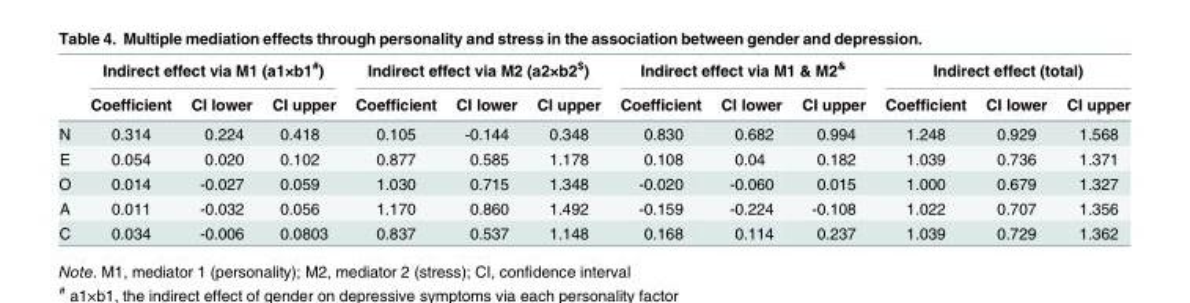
<table><thead><tr><td rowspan="2"></td><td colspan="3">Indirect effect via M1 (a1×b1<sup>#</sup>)</td><td colspan="3">Indirect effect via M2 (a2×b2<sup>$</sup>)</td><td colspan="3">Indirect effect via M1 &amp; M2<sup>&amp;</sup></td><td colspan="3">Indirect effect (total)</td></tr><tr><td>Coefficient</td><td>CI lower</td><td>CI upper</td><td>Coefficient</td><td>CI lower</td><td>CI upper</td><td>Coefficient</td><td>CI lower</td><td>CI upper</td><td>Coefficient</td><td>CI lower</td><td>CI upper</td></tr></thead><tbody><tr><td>N</td><td>0.314</td><td>0.224</td><td>0.418</td><td>0.105</td><td>-0.144</td><td>0.348</td><td>0.830</td><td>0.682</td><td>0.994</td><td>1.248</td><td>0.929</td><td>1.568</td></tr><tr><td>E</td><td>0.054</td><td>0.020</td><td>0.102</td><td>0.877</td><td>0.585</td><td>1.178</td><td>0.108</td><td>0.04</td><td>0.182</td><td>1.039</td><td>0.736</td><td>1.371</td></tr><tr><td>O</td><td>0.014</td><td>-0.027</td><td>0.059</td><td>1.030</td><td>0.715</td><td>1.348</td><td>-0.020</td><td>-0.060</td><td>0.015</td><td>1.000</td><td>0.679</td><td>1.327</td></tr><tr><td>A</td><td>0.011</td><td>-0.032</td><td>0.056</td><td>1.170</td><td>0.860</td><td>1.492</td><td>-0.159</td><td>-0.224</td><td>-0.108</td><td>1.022</td><td>0.707</td><td>1.356</td></tr><tr><td>C</td><td>0.034</td><td>-0.006</td><td>0.0803</td><td>0.837</td><td>0.537</td><td>1.148</td><td>0.168</td><td>0.114</td><td>0.237</td><td>1.039</td><td>0.729</td><td>1.362</td></tr></tbody></table>